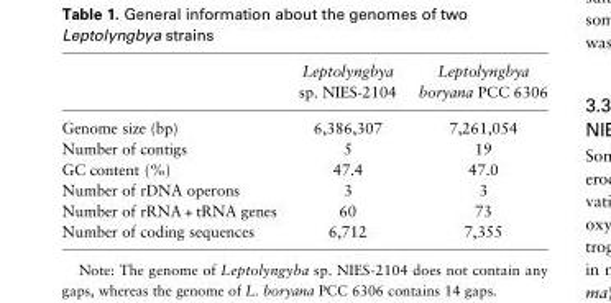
<table><thead><tr><td></td><td>Leptolyngbya sp. NIES-2104</td><td>Leptolyngbya boryana PCC 6306</td></tr></thead><tbody><tr><td>Genome size (bp)</td><td>6,386,307</td><td>7,261,054</td></tr><tr><td>Number of contigs</td><td>5</td><td>19</td></tr><tr><td>GC content (%)</td><td>47.4</td><td>47.0</td></tr><tr><td>Number of rDNA operons</td><td>3</td><td>3</td></tr><tr><td>Number of rRNA + tRNA genes</td><td>60</td><td>73</td></tr><tr><td>Number of coding sequences</td><td>6,712</td><td>7,355</td></tr></tbody></table>